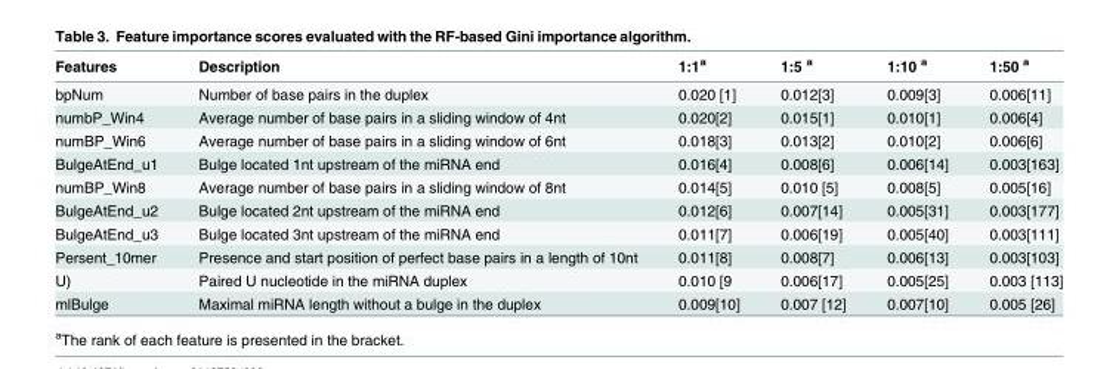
<table><thead><tr><td>Features</td><td>Description</td><td>1:1<sup>a</sup></td><td>1:5 <sup>a</sup></td><td>1:10 <sup>a</sup></td><td>1:50 <sup>a</sup></td></tr></thead><tbody><tr><td>bpNum</td><td>Number of base pairs in the duplex</td><td>0.020 [1]</td><td>0.012[3]</td><td>0.009[3]</td><td>0.006[11]</td></tr><tr><td>numbP_Win4</td><td>Average number of base pairs in a sliding window of 4nt</td><td>0.020[2]</td><td>0.015[1]</td><td>0.010[1]</td><td>0.006[4]</td></tr><tr><td>numBP_Win6</td><td>Average number of base pairs in a sliding window of 6nt</td><td>0.018[3]</td><td>0.013[2]</td><td>0.010[2]</td><td>0.006[6]</td></tr><tr><td>BulgeAtEnd_u1</td><td>Bulge located 1nt upstream of the miRNA end</td><td>0.016[4]</td><td>0.008[6]</td><td>0.006[14]</td><td>0.003[163]</td></tr><tr><td>numBP_Win8</td><td>Average number of base pairs in a sliding window of 8nt</td><td>0.014[5]</td><td>0.010 [5]</td><td>0.008[5]</td><td>0.005[16]</td></tr><tr><td>BulgeAtEnd_u2</td><td>Bulge located 2nt upstream of the miRNA end</td><td>0.012[6]</td><td>0.007[14]</td><td>0.005[31]</td><td>0.003[177]</td></tr><tr><td>BulgeAtEnd_u3</td><td>Bulge located 3nt upstream of the miRNA end</td><td>0.011[7]</td><td>0.006[19]</td><td>0.005[40]</td><td>0.003[111]</td></tr><tr><td>Persent_10mer</td><td>Presence and start position of perfect base pairs in a length of 10nt</td><td>0.011[8]</td><td>0.008[7]</td><td>0.006[13]</td><td>0.003[103]</td></tr><tr><td>U)</td><td>Paired U nucleotide in the miRNA duplex</td><td>0.010 [9</td><td>0.006[17]</td><td>0.005[25]</td><td>0.003 [113]</td></tr><tr><td>mlBulge</td><td>Maximal miRNA length without a bulge in the duplex</td><td>0.009[10]</td><td>0.007 [12]</td><td>0.007[10]</td><td>0.005 [26]</td></tr></tbody></table>